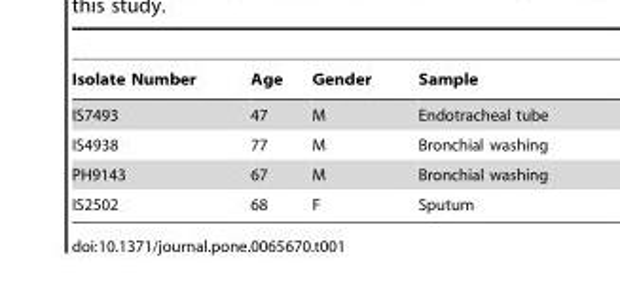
<table><thead><tr><td>Isolate Number</td><td>Age</td><td>Gender</td><td>Sample</td></tr></thead><tbody><tr><td>IS7493</td><td>47</td><td>M</td><td>Endotracheal tube</td></tr><tr><td>IS4938</td><td>77</td><td>M</td><td>Bronchial washing</td></tr><tr><td>PH9143</td><td>67</td><td>M</td><td>Bronchial washing</td></tr><tr><td>IS2502</td><td>68</td><td>F</td><td>Sputum</td></tr></tbody></table>